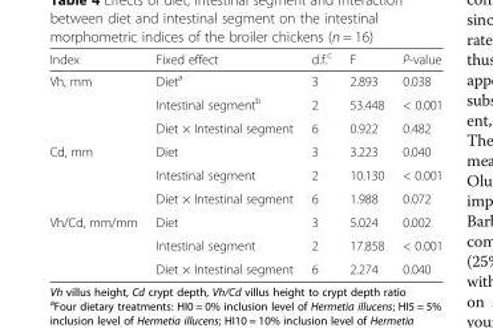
<table><thead><tr><td>Index</td><td>Fixed effect</td><td>d.f.<sup>c</sup></td><td>F</td><td>P-value</td></tr></thead><tbody><tr><td rowspan="3">Vh, mm</td><td>Diet<sup>a</sup></td><td>3</td><td>2.893</td><td>0.038</td></tr><tr><td>Intestinal segment<sup>b</sup></td><td>2</td><td>53.448</td><td>&lt; 0.001</td></tr><tr><td>Diet × Intestinal segment</td><td>6</td><td>0.922</td><td>0.482</td></tr><tr><td rowspan="3">Cd, mm</td><td>Diet</td><td>3</td><td>3.223</td><td>0.040</td></tr><tr><td>Intestinal segment</td><td>2</td><td>10.130</td><td>&lt; 0.001</td></tr><tr><td>Diet × Intestinal segment</td><td>6</td><td>1.988</td><td>0.072</td></tr><tr><td rowspan="3">Vh/Cd, mm/mm</td><td>Diet</td><td>3</td><td>5.024</td><td>0.002</td></tr><tr><td>Intestinal segment</td><td>2</td><td>17.858</td><td>&lt; 0.001</td></tr><tr><td>Diet × Intestinal segment</td><td>6</td><td>2.274</td><td>0.040</td></tr></tbody></table>